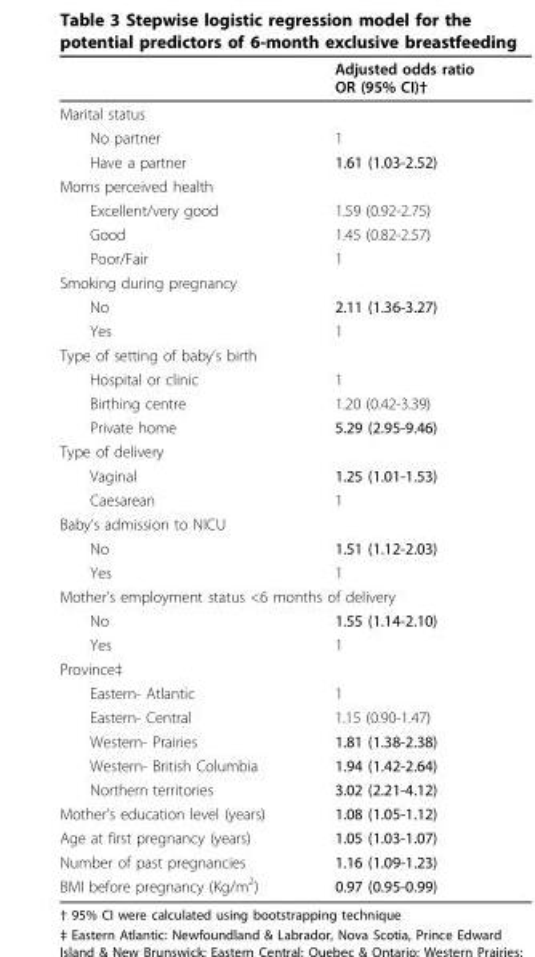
<table><thead><tr><td></td><td>Adjusted odds ratio OR (95% CI)†</td></tr></thead><tbody><tr><td colspan="2">Marital status</td></tr><tr><td>No partner</td><td>1</td></tr><tr><td>Have a partner</td><td>1.61 (1.03-2.52)</td></tr><tr><td colspan="2">Moms perceived health</td></tr><tr><td>Excellent/very good</td><td>1.59 (0.92-2.75)</td></tr><tr><td>Good</td><td>1.45 (0.82-2.57)</td></tr><tr><td>Poor/Fair</td><td>1</td></tr><tr><td colspan="2">Smoking during pregnancy</td></tr><tr><td>No</td><td>2.11 (1.36-3.27)</td></tr><tr><td>Yes</td><td>1</td></tr><tr><td colspan="2">Type of setting of baby’s birth</td></tr><tr><td>Hospital or clinic</td><td>1</td></tr><tr><td>Birthing centre</td><td>1.20 (0.42-3.39)</td></tr><tr><td>Private home</td><td>5.29 (2.95-9.46)</td></tr><tr><td colspan="2">Type of delivery</td></tr><tr><td>Vaginal</td><td>1.25 (1.01-1.53)</td></tr><tr><td>Caesarean</td><td>1</td></tr><tr><td colspan="2">Baby’s admission to NICU</td></tr><tr><td>No</td><td>1.51 (1.12-2.03)</td></tr><tr><td>Yes</td><td>1</td></tr><tr><td colspan="2">Mother’s employment status &lt;6 months of delivery</td></tr><tr><td>No</td><td>1.55 (1.14-2.10)</td></tr><tr><td>Yes</td><td>1</td></tr><tr><td colspan="2">Province‡</td></tr><tr><td>Eastern- Atlantic</td><td>1</td></tr><tr><td>Eastern- Central</td><td>1.15 (0.90-1.47)</td></tr><tr><td>Western- Prairies</td><td>1.81 (1.38-2.38)</td></tr><tr><td>Western- British Columbia</td><td>1.94 (1.42-2.64)</td></tr><tr><td>Northern territories</td><td>3.02 (2.21-4.12)</td></tr><tr><td>Mother’s education level (years)</td><td>1.08 (1.05-1.12)</td></tr><tr><td>Age at first pregnancy (years)</td><td>1.05 (1.03-1.07)</td></tr><tr><td>Number of past pregnancies</td><td>1.16 (1.09-1.23)</td></tr><tr><td>BMI before pregnancy (Kg/m<sup>2</sup>)</td><td>0.97 (0.95-0.99)</td></tr></tbody></table>